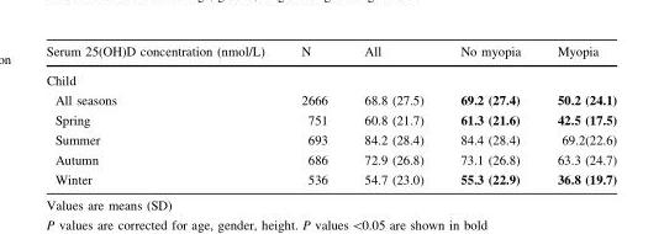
<table><thead><tr><td>Serum 25(OH)D concentration (nmol/L)</td><td>N</td><td>All</td><td>No myopia</td><td>Myopia</td></tr></thead><tbody><tr><td colspan="5">Child</td></tr><tr><td>All seasons</td><td>2666</td><td>68.8 (27.5)</td><td>69.2 (27.4)</td><td>50.2 (24.1)</td></tr><tr><td>Spring</td><td>751</td><td>60.8 (21.7)</td><td>61.3 (21.6)</td><td>42.5 (17.5)</td></tr><tr><td>Summer</td><td>693</td><td>84.2 (28.4)</td><td>84.4 (28.4)</td><td>69.2(22.6)</td></tr><tr><td>Autumn</td><td>686</td><td>72.9 (26.8)</td><td>73.1 (26.8)</td><td>63.3 (24.7)</td></tr><tr><td>Winter</td><td>536</td><td>54.7 (23.0)</td><td>55.3 (22.9)</td><td>36.8 (19.7)</td></tr></tbody></table>